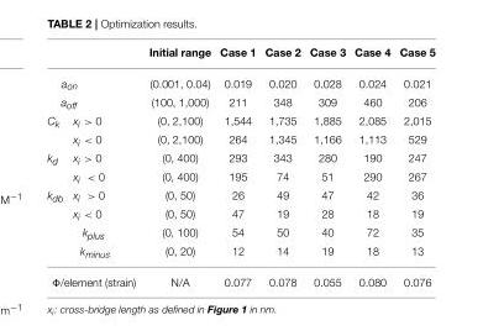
<table><thead><tr><td></td><td></td><td>Initial range</td><td>Case 1</td><td>Case 2</td><td>Case 3</td><td>Case 4</td><td>Case 5</td></tr></thead><tbody><tr><td colspan="2">a<sub>on</sub></td><td>(0.001, 0.04)</td><td>0.019</td><td>0.020</td><td>0.028</td><td>0.024</td><td>0.021</td></tr><tr><td colspan="2">a<sub>off</sub></td><td>(100, 1,000)</td><td>211</td><td>348</td><td>309</td><td>460</td><td>206</td></tr><tr><td rowspan="2">C<sub>k</sub></td><td>x<sub>i</sub> &gt; 0</td><td>(0, 2,100)</td><td>1,544</td><td>1,735</td><td>1,885</td><td>2,085</td><td>2,015</td></tr><tr><td>x<sub>i</sub> &lt; 0</td><td>(0, 2,100)</td><td>264</td><td>1,345</td><td>1,166</td><td>1,113</td><td>529</td></tr><tr><td rowspan="2">k<sub>d</sub></td><td>x<sub>i</sub> &gt; 0</td><td>(0, 400)</td><td>293</td><td>343</td><td>280</td><td>190</td><td>247</td></tr><tr><td>x<sub>i</sub> &lt; 0</td><td>(0, 400)</td><td>195</td><td>74</td><td>51</td><td>290</td><td>267</td></tr><tr><td rowspan="4">k<sub>db</sub></td><td>x<sub>i</sub> &gt; 0</td><td>(0, 50)</td><td>26</td><td>49</td><td>47</td><td>42</td><td>36</td></tr><tr><td>x<sub>i</sub> &lt; 0</td><td>(0, 50)</td><td>47</td><td>19</td><td>28</td><td>18</td><td>19</td></tr><tr><td>k<sub>plus</sub></td><td>(0, 100)</td><td>54</td><td>50</td><td>40</td><td>72</td><td>35</td></tr><tr><td>k<sub>minus</sub></td><td>(0, 20)</td><td>12</td><td>14</td><td>19</td><td>18</td><td>13</td></tr><tr><td colspan="2">Φ/element (strain)</td><td>N/A</td><td>0.077</td><td>0.078</td><td>0.055</td><td>0.080</td><td>0.076</td></tr></tbody></table>